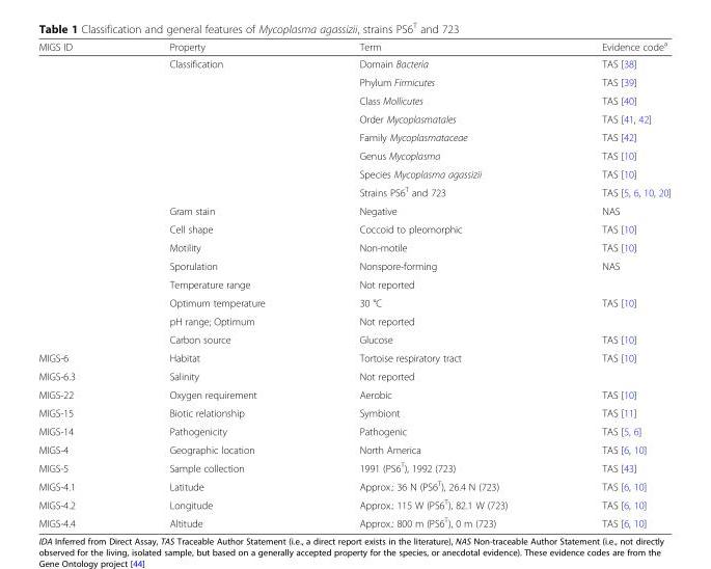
<table><thead><tr><td>MIGS ID</td><td>Property</td><td>Term</td><td>Evidence code<sup>a</sup></td></tr></thead><tbody><tr><td></td><td>Classification</td><td>Domain Bacteria</td><td>TAS [38]</td></tr><tr><td></td><td></td><td>Phylum Firmicutes</td><td>TAS [39]</td></tr><tr><td></td><td></td><td>Class Mollicutes</td><td>TAS [40]</td></tr><tr><td></td><td></td><td>Order Mycoplasmatales</td><td>TAS [41, 42]</td></tr><tr><td></td><td></td><td>Family Mycoplasmataceae</td><td>TAS [42]</td></tr><tr><td></td><td></td><td>Genus Mycoplasma</td><td>TAS [10]</td></tr><tr><td></td><td></td><td>Species Mycoplasma agassizii</td><td>TAS [10]</td></tr><tr><td></td><td></td><td>Strains PS6<sup>T</sup> and 723</td><td>TAS [5, 6, 10, 20]</td></tr><tr><td></td><td>Gram stain</td><td>Negative</td><td>NAS</td></tr><tr><td></td><td>Cell shape</td><td>Coccoid to pleomorphic</td><td>TAS [10]</td></tr><tr><td></td><td>Motility</td><td>Non-motile</td><td>TAS [10]</td></tr><tr><td></td><td>Sporulation</td><td>Nonspore-forming</td><td>NAS</td></tr><tr><td></td><td>Temperature range</td><td>Not reported</td><td></td></tr><tr><td></td><td>Optimum temperature</td><td>30 °C</td><td>TAS [10]</td></tr><tr><td></td><td>pH range; Optimum</td><td>Not reported</td><td></td></tr><tr><td></td><td>Carbon source</td><td>Glucose</td><td>TAS [10]</td></tr><tr><td>MIGS-6</td><td>Habitat</td><td>Tortoise respiratory tract</td><td>TAS [10]</td></tr><tr><td>MIGS-6.3</td><td>Salinity</td><td>Not reported</td><td></td></tr><tr><td>MIGS-22</td><td>Oxygen requirement</td><td>Aerobic</td><td>TAS [10]</td></tr><tr><td>MIGS-15</td><td>Biotic relationship</td><td>Symbiont</td><td>TAS [11]</td></tr><tr><td>MIGS-14</td><td>Pathogenicity</td><td>Pathogenic</td><td>TAS [5, 6]</td></tr><tr><td>MIGS-4</td><td>Geographic location</td><td>North America</td><td>TAS [6, 10]</td></tr><tr><td>MIGS-5</td><td>Sample collection</td><td>1991 (PS6<sup>T</sup>), 1992 (723)</td><td>TAS [43]</td></tr><tr><td>MIGS-4.1</td><td>Latitude</td><td>Approx.: 36 N (PS6<sup>T</sup>), 26.4 N (723)</td><td>TAS [6, 10]</td></tr><tr><td>MIGS-4.2</td><td>Longitude</td><td>Approx.: 115 W (PS6<sup>T</sup>), 82.1 W (723)</td><td>TAS [6, 10]</td></tr><tr><td>MIGS-4.4</td><td>Altitude</td><td>Approx.: 800 m (PS6<sup>T</sup>), 0 m (723)</td><td>TAS [6, 10]</td></tr></tbody></table>